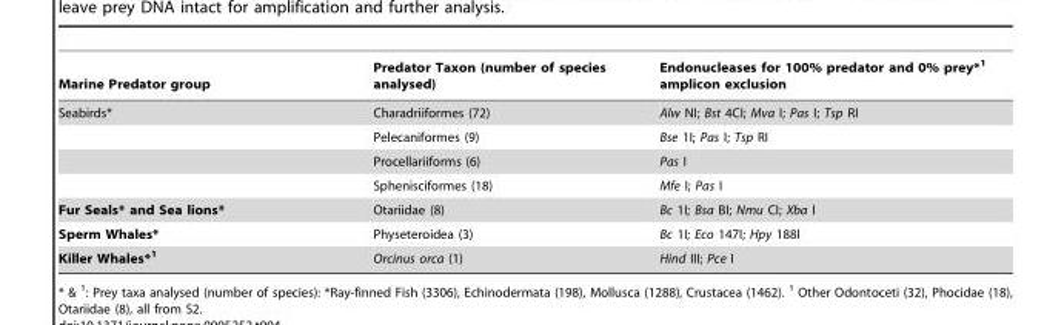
<table><thead><tr><td>Marine Predator group</td><td>Predator Taxon (number of species analysed)</td><td>Endonucleases for 100% predator and 0% prey*<sup>1</sup> amplicon exclusion</td></tr></thead><tbody><tr><td rowspan="4">Seabirds*</td><td>Charadriiformes (72)</td><td>Alw NI; Bst 4CI; Mva I; Pas I; Tsp RI</td></tr><tr><td>Pelecaniformes (9)</td><td>Bse 1I; Pas I; Tsp RI</td></tr><tr><td>Procellariiforms (6)</td><td>Pas I</td></tr><tr><td>Sphenisciformes (18)</td><td>Mfe I; Pas I</td></tr><tr><td>Fur Seals* and Sea lions*</td><td>Otariidae (8)</td><td>Bc 1I; Bsa BI; Nmu CI; Xba I</td></tr><tr><td>Sperm Whales*</td><td>Physeteroidea (3)</td><td>Bc 1I; Eco 147I; Hpy 188I</td></tr><tr><td>Killer Whales*<sup>1</sup></td><td>Orcinus orca (1)</td><td>Hind III; Pce I</td></tr></tbody></table>